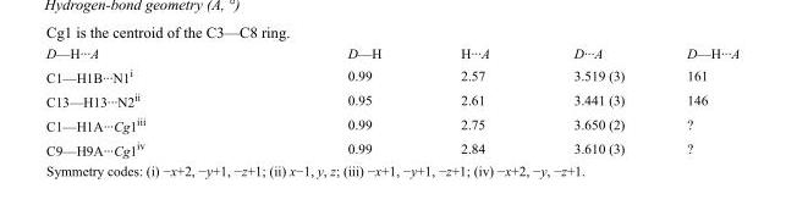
<table><tbody><tr><td>D—H···A</td><td>D—H</td><td>H···A</td><td>D···A</td><td>D—H···A</td></tr><tr><td>C1—H1B···N1<sup>i</sup></td><td>0.99</td><td>2.57</td><td>3.519 (3)</td><td>161</td></tr><tr><td>C13—H13···N2<sup>ii</sup></td><td>0.95</td><td>2.61</td><td>3.441 (3)</td><td>146</td></tr><tr><td>C1—H1A···Cg1<sup>iii</sup></td><td>0.99</td><td>2.75</td><td>3.650 (2)</td><td>?</td></tr><tr><td>C9—H9A···Cg1<sup>iv</sup></td><td>0.99</td><td>2.84</td><td>3.610 (3)</td><td>?</td></tr></tbody></table>